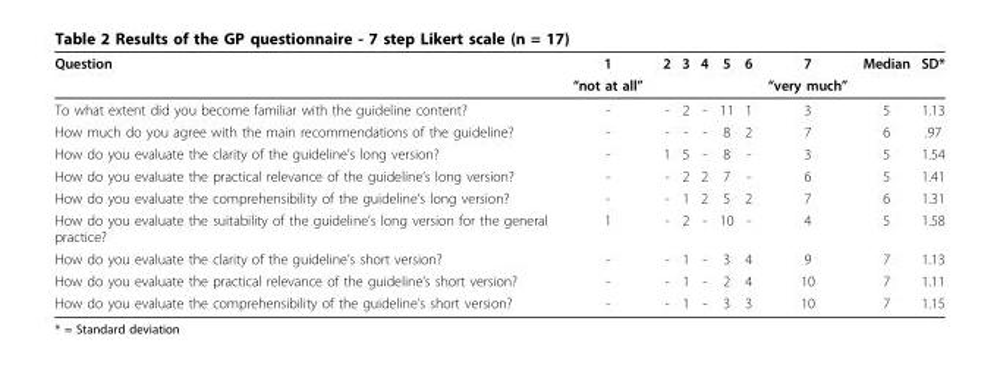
<table><thead><tr><td rowspan="2">Question</td><td rowspan="2">1 “not at all”</td><td rowspan="2">2</td><td rowspan="2">3</td><td rowspan="2">4</td><td rowspan="2">5</td><td rowspan="2">6</td><td rowspan="2">7 “very much”</td><td rowspan="2">Median</td><td rowspan="2">SD*</td></tr><tr></tr></thead><tbody><tr><td>To what extent did you become familiar with the guideline content?</td><td>-</td><td>-</td><td>2</td><td>-</td><td>11</td><td>1</td><td>3</td><td>5</td><td>1.13</td></tr><tr><td>How much do you agree with the main recommendations of the guideline?</td><td>-</td><td>-</td><td>-</td><td>-</td><td>8</td><td>2</td><td>7</td><td>6</td><td>.97</td></tr><tr><td>How do you evaluate the clarity of the guideline’s long version?</td><td>-</td><td>1</td><td>5</td><td>-</td><td>8</td><td>-</td><td>3</td><td>5</td><td>1.54</td></tr><tr><td>How do you evaluate the practical relevance of the guideline’s long version?</td><td>-</td><td>-</td><td>2</td><td>2</td><td>7</td><td>-</td><td>6</td><td>5</td><td>1.41</td></tr><tr><td>How do you evaluate the comprehensibility of the guideline’s long version?</td><td>-</td><td>-</td><td>1</td><td>2</td><td>5</td><td>2</td><td>7</td><td>6</td><td>1.31</td></tr><tr><td>How do you evaluate the suitability of the guideline’s long version for the general practice?</td><td>1</td><td>-</td><td>2</td><td>-</td><td>10</td><td>-</td><td>4</td><td>5</td><td>1.58</td></tr><tr><td>How do you evaluate the clarity of the guideline’s short version?</td><td>-</td><td>-</td><td>1</td><td>-</td><td>3</td><td>4</td><td>9</td><td>7</td><td>1.13</td></tr><tr><td>How do you evaluate the practical relevance of the guideline’s short version?</td><td>-</td><td>-</td><td>1</td><td>-</td><td>2</td><td>4</td><td>10</td><td>7</td><td>1.11</td></tr><tr><td>How do you evaluate the comprehensibility of the guideline’s short version?</td><td>-</td><td>-</td><td>1</td><td>-</td><td>3</td><td>3</td><td>10</td><td>7</td><td>1.15</td></tr></tbody></table>